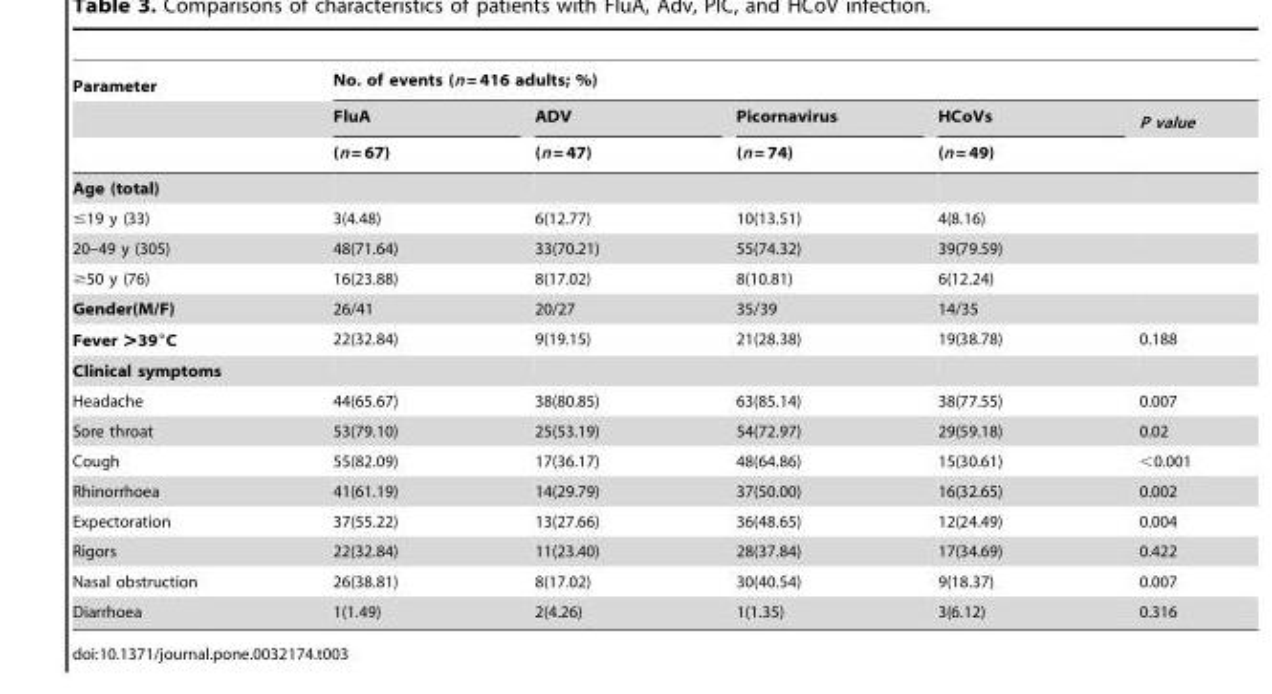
<table><thead><tr><td rowspan="3">Parameter</td><td colspan="5">No. of events (n = 416 adults; %)</td></tr><tr><td rowspan="2">FluA (n = 67)</td><td rowspan="2">ADV (n = 47)</td><td rowspan="2">Picornavirus (n = 74)</td><td rowspan="2">HCoVs (n = 49)</td><td rowspan="2">P value</td></tr><tr></tr></thead><tbody><tr><td colspan="6">Age (total)</td></tr><tr><td>≤19 y (33)</td><td>3(4.48)</td><td>6(12.77)</td><td>10(13.51)</td><td>4(8.16)</td><td></td></tr><tr><td>20–49 y (305)</td><td>48(71.64)</td><td>33(70.21)</td><td>55(74.32)</td><td>39(79.59)</td><td></td></tr><tr><td>≥50 y (76)</td><td>16(23.88)</td><td>8(17.02)</td><td>8(10.81)</td><td>6(12.24)</td><td></td></tr><tr><td>Gender(M/F)</td><td>26/41</td><td>20/27</td><td>35/39</td><td>14/35</td><td></td></tr><tr><td>Fever &gt;39°C</td><td>22(32.84)</td><td>9(19.15)</td><td>21(28.38)</td><td>19(38.78)</td><td>0.188</td></tr><tr><td colspan="6">Clinical symptoms</td></tr><tr><td>Headache</td><td>44(65.67)</td><td>38(80.85)</td><td>63(85.14)</td><td>38(77.55)</td><td>0.007</td></tr><tr><td>Sore throat</td><td>53(79.10)</td><td>25(53.19)</td><td>54(72.97)</td><td>29(59.18)</td><td>0.02</td></tr><tr><td>Cough</td><td>55(82.09)</td><td>17(36.17)</td><td>48(64.86)</td><td>15(30.61)</td><td>&lt;0.001</td></tr><tr><td>Rhinorrhoea</td><td>41(61.19)</td><td>14(29.79)</td><td>37(50.00)</td><td>16(32.65)</td><td>0.002</td></tr><tr><td>Expectoration</td><td>37(55.22)</td><td>13(27.66)</td><td>36(48.65)</td><td>12(24.49)</td><td>0.004</td></tr><tr><td>Rigors</td><td>22(32.84)</td><td>11(23.40)</td><td>28(37.84)</td><td>17(34.69)</td><td>0.422</td></tr><tr><td>Nasal obstruction</td><td>26(38.81)</td><td>8(17.02)</td><td>30(40.54)</td><td>9(18.37)</td><td>0.007</td></tr><tr><td>Diarrhoea</td><td>1(1.49)</td><td>2(4.26)</td><td>1(1.35)</td><td>3(6.12)</td><td>0.316</td></tr></tbody></table>